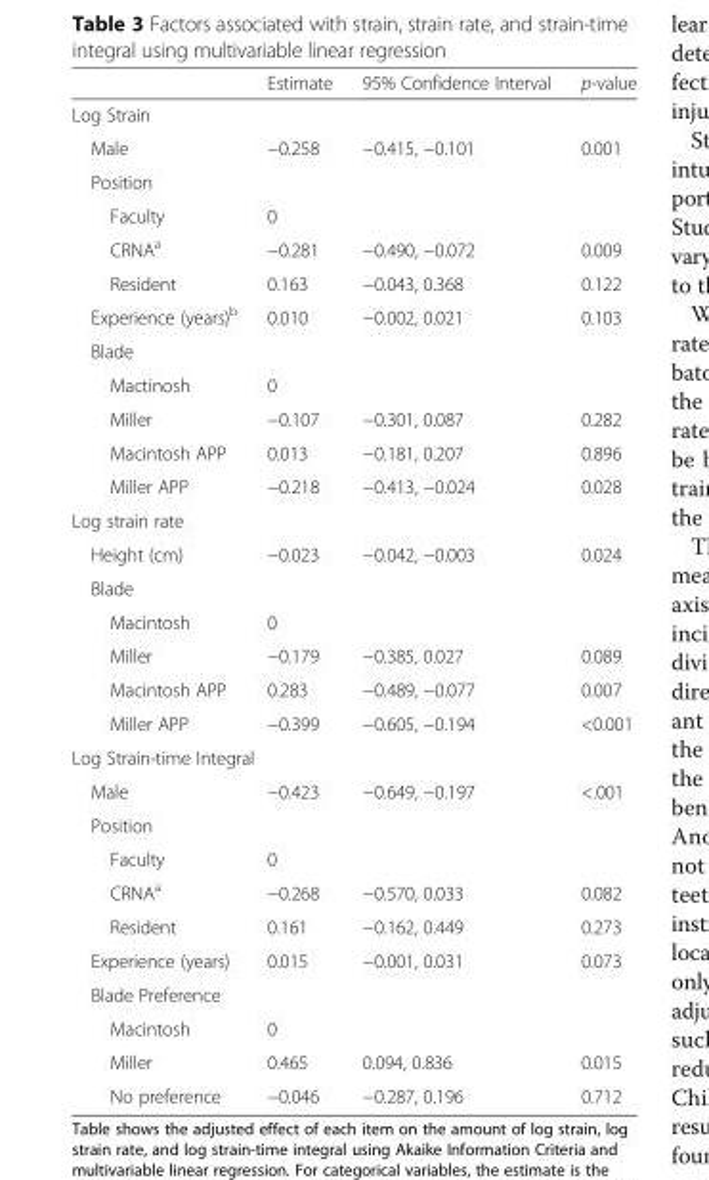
<table><thead><tr><td></td><td>Estimate</td><td>95% Confidence Interval</td><td>p-value</td></tr></thead><tbody><tr><td colspan="4">Log Strain</td></tr><tr><td>Male</td><td>−0.258</td><td>−0.415, −0.101</td><td>0.001</td></tr><tr><td colspan="4">Position</td></tr><tr><td>Faculty</td><td>0</td><td></td><td></td></tr><tr><td>CRNA<sup>a</sup></td><td>−0.281</td><td>−0.490, −0.072</td><td>0.009</td></tr><tr><td>Resident</td><td>0.163</td><td>−0.043, 0.368</td><td>0.122</td></tr><tr><td>Experience (years)<sup>b</sup></td><td>0.010</td><td>−0.002, 0.021</td><td>0.103</td></tr><tr><td colspan="4">Blade</td></tr><tr><td>Mactinosh</td><td>0</td><td></td><td></td></tr><tr><td>Miller</td><td>−0.107</td><td>−0.301, 0.087</td><td>0.282</td></tr><tr><td>Macintosh APP</td><td>0.013</td><td>−0.181, 0.207</td><td>0.896</td></tr><tr><td>Miller APP</td><td>−0.218</td><td>−0.413, −0.024</td><td>0.028</td></tr><tr><td colspan="4">Log strain rate</td></tr><tr><td>Height (cm)</td><td>−0.023</td><td>−0.042, −0.003</td><td>0.024</td></tr><tr><td colspan="4">Blade</td></tr><tr><td>Macintosh</td><td>0</td><td></td><td></td></tr><tr><td>Miller</td><td>−0.179</td><td>−0.385, 0.027</td><td>0.089</td></tr><tr><td>Macintosh APP</td><td>0.283</td><td>−0.489, −0.077</td><td>0.007</td></tr><tr><td>Miller APP</td><td>−0.399</td><td>−0.605, −0.194</td><td>&lt;0.001</td></tr><tr><td colspan="4">Log Strain-time Integral</td></tr><tr><td>Male</td><td>−0.423</td><td>−0.649, −0.197</td><td>&lt;.001</td></tr><tr><td colspan="4">Position</td></tr><tr><td>Faculty</td><td>0</td><td></td><td></td></tr><tr><td>CRNA<sup>a</sup></td><td>−0.268</td><td>−0.570, 0.033</td><td>0.082</td></tr><tr><td>Resident</td><td>0.161</td><td>−0.162, 0.449</td><td>0.273</td></tr><tr><td>Experience (years)</td><td>0.015</td><td>−0.001, 0.031</td><td>0.073</td></tr><tr><td colspan="4">Blade Preference</td></tr><tr><td>Macintosh</td><td>0</td><td></td><td></td></tr><tr><td>Miller</td><td>0.465</td><td>0.094, 0.836</td><td>0.015</td></tr><tr><td>No preference</td><td>−0.046</td><td>−0.287, 0.196</td><td>0.712</td></tr></tbody></table>